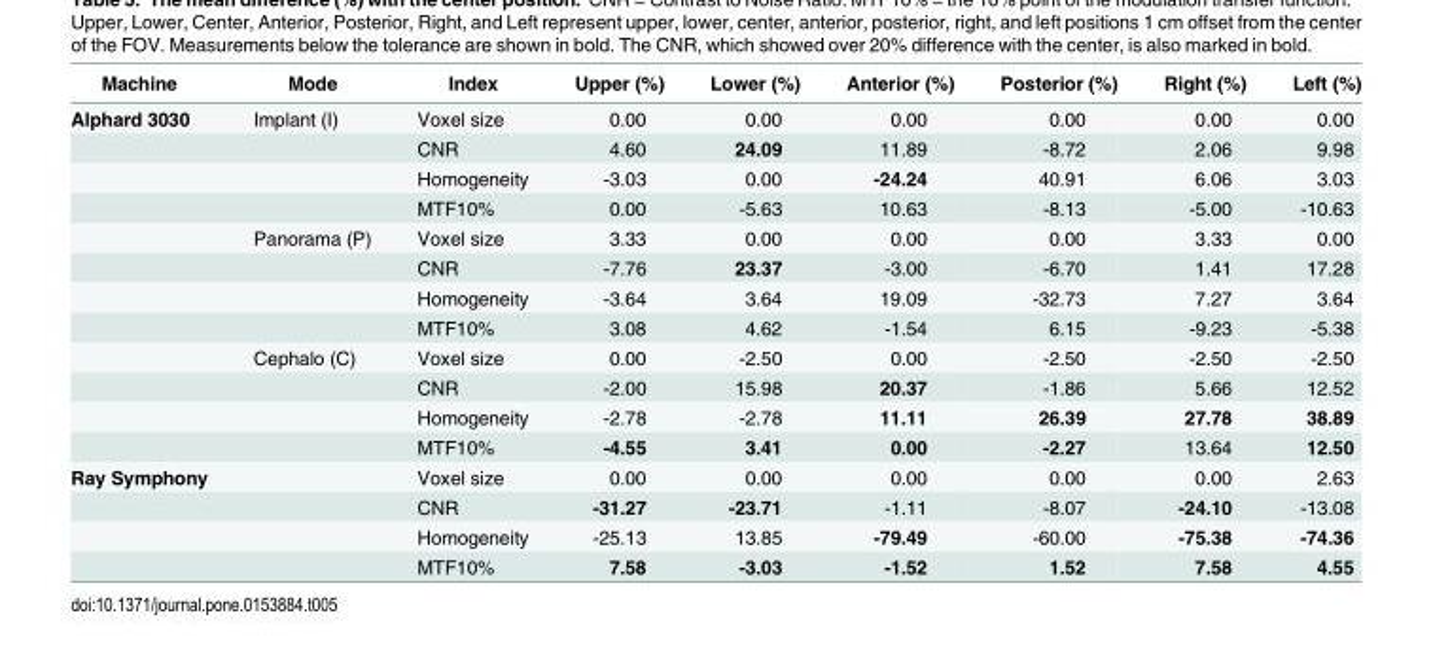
<table><thead><tr><td>Machine</td><td>Mode</td><td>Index</td><td>Upper (%)</td><td>Lower (%)</td><td>Anterior (%)</td><td>Posterior (%)</td><td>Right (%)</td><td>Left (%)</td></tr></thead><tbody><tr><td rowspan="12">Alphard 3030</td><td>Implant (I)</td><td>Voxel size</td><td>0.00</td><td>0.00</td><td>0.00</td><td>0.00</td><td>0.00</td><td>0.00</td></tr><tr><td></td><td>CNR</td><td>4.60</td><td>24.09</td><td>11.89</td><td>-8.72</td><td>2.06</td><td>9.98</td></tr><tr><td></td><td>Homogeneity</td><td>-3.03</td><td>0.00</td><td>-24.24</td><td>40.91</td><td>6.06</td><td>3.03</td></tr><tr><td></td><td>MTF10%</td><td>0.00</td><td>-5.63</td><td>10.63</td><td>-8.13</td><td>-5.00</td><td>-10.63</td></tr><tr><td>Panorama (P)</td><td>Voxel size</td><td>3.33</td><td>0.00</td><td>0.00</td><td>0.00</td><td>3.33</td><td>0.00</td></tr><tr><td></td><td>CNR</td><td>-7.76</td><td>23.37</td><td>-3.00</td><td>-6.70</td><td>1.41</td><td>17.28</td></tr><tr><td></td><td>Homogeneity</td><td>-3.64</td><td>3.64</td><td>19.09</td><td>-32.73</td><td>7.27</td><td>3.64</td></tr><tr><td></td><td>MTF10%</td><td>3.08</td><td>4.62</td><td>-1.54</td><td>6.15</td><td>-9.23</td><td>-5.38</td></tr><tr><td>Cephalo (C)</td><td>Voxel size</td><td>0.00</td><td>-2.50</td><td>0.00</td><td>-2.50</td><td>-2.50</td><td>-2.50</td></tr><tr><td></td><td>CNR</td><td>-2.00</td><td>15.98</td><td>20.37</td><td>-1.86</td><td>5.66</td><td>12.52</td></tr><tr><td></td><td>Homogeneity</td><td>-2.78</td><td>-2.78</td><td>11.11</td><td>26.39</td><td>27.78</td><td>38.89</td></tr><tr><td></td><td>MTF10%</td><td>-4.55</td><td>3.41</td><td>0.00</td><td>-2.27</td><td>13.64</td><td>12.50</td></tr><tr><td rowspan="4">Ray Symphony</td><td></td><td>Voxel size</td><td>0.00</td><td>0.00</td><td>0.00</td><td>0.00</td><td>0.00</td><td>2.63</td></tr><tr><td></td><td>CNR</td><td>-31.27</td><td>-23.71</td><td>-1.11</td><td>-8.07</td><td>-24.10</td><td>-13.08</td></tr><tr><td></td><td>Homogeneity</td><td>-25.13</td><td>13.85</td><td>-79.49</td><td>-60.00</td><td>-75.38</td><td>-74.36</td></tr><tr><td></td><td>MTF10%</td><td>7.58</td><td>-3.03</td><td>-1.52</td><td>1.52</td><td>7.58</td><td>4.55</td></tr></tbody></table>